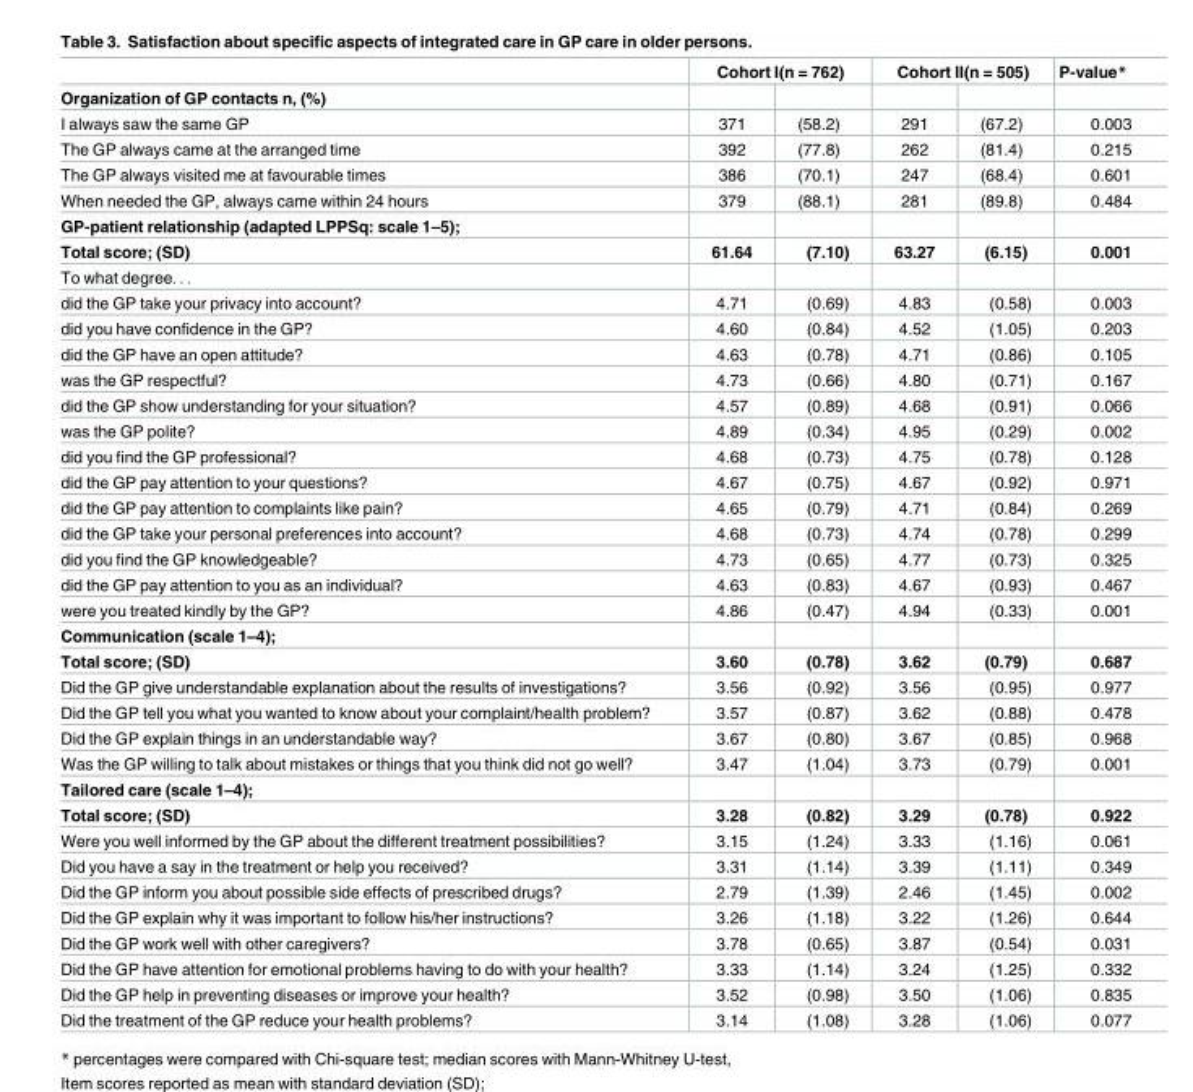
<table><thead><tr><td rowspan="2">Organization of GP contacts n, (%)</td><td colspan="2">Cohort I(n = 762)</td><td colspan="2">Cohort II(n = 505)</td><td rowspan="2">P-value*</td></tr><tr><td></td><td></td><td></td><td></td></tr></thead><tbody><tr><td>I always saw the same GP</td><td>371</td><td>(58.2)</td><td>291</td><td>(67.2)</td><td>0.003</td></tr><tr><td>The GP always came at the arranged time</td><td>392</td><td>(77.8)</td><td>262</td><td>(81.4)</td><td>0.215</td></tr><tr><td>The GP always visited me at favourable times</td><td>386</td><td>(70.1)</td><td>247</td><td>(68.4)</td><td>0.601</td></tr><tr><td>When needed the GP, always came within 24 hours</td><td>379</td><td>(88.1)</td><td>281</td><td>(89.8)</td><td>0.484</td></tr><tr><td colspan="6">GP-patient relationship (adapted LPPSq: scale 1–5);</td></tr><tr><td>Total score; (SD)</td><td>61.64</td><td>(7.10)</td><td>63.27</td><td>(6.15)</td><td>0.001</td></tr><tr><td colspan="6">To what degree. . .</td></tr><tr><td>did the GP take your privacy into account?</td><td>4.71</td><td>(0.69)</td><td>4.83</td><td>(0.58)</td><td>0.003</td></tr><tr><td>did you have confidence in the GP?</td><td>4.60</td><td>(0.84)</td><td>4.52</td><td>(1.05)</td><td>0.203</td></tr><tr><td>did the GP have an open attitude?</td><td>4.63</td><td>(0.78)</td><td>4.71</td><td>(0.86)</td><td>0.105</td></tr><tr><td>was the GP respectful?</td><td>4.73</td><td>(0.66)</td><td>4.80</td><td>(0.71)</td><td>0.167</td></tr><tr><td>did the GP show understanding for your situation?</td><td>4.57</td><td>(0.89)</td><td>4.68</td><td>(0.91)</td><td>0.066</td></tr><tr><td>was the GP polite?</td><td>4.89</td><td>(0.34)</td><td>4.95</td><td>(0.29)</td><td>0.002</td></tr><tr><td>did you find the GP professional?</td><td>4.68</td><td>(0.73)</td><td>4.75</td><td>(0.78)</td><td>0.128</td></tr><tr><td>did the GP pay attention to your questions?</td><td>4.67</td><td>(0.75)</td><td>4.67</td><td>(0.92)</td><td>0.971</td></tr><tr><td>did the GP pay attention to complaints like pain?</td><td>4.65</td><td>(0.79)</td><td>4.71</td><td>(0.84)</td><td>0.269</td></tr><tr><td>did the GP take your personal preferences into account?</td><td>4.68</td><td>(0.73)</td><td>4.74</td><td>(0.78)</td><td>0.299</td></tr><tr><td>did you find the GP knowledgeable?</td><td>4.73</td><td>(0.65)</td><td>4.77</td><td>(0.73)</td><td>0.325</td></tr><tr><td>did the GP pay attention to you as an individual?</td><td>4.63</td><td>(0.83)</td><td>4.67</td><td>(0.93)</td><td>0.467</td></tr><tr><td>were you treated kindly by the GP?</td><td>4.86</td><td>(0.47)</td><td>4.94</td><td>(0.33)</td><td>0.001</td></tr><tr><td colspan="6">Communication (scale 1–4);</td></tr><tr><td>Total score; (SD)</td><td>3.60</td><td>(0.78)</td><td>3.62</td><td>(0.79)</td><td>0.687</td></tr><tr><td>Did the GP give understandable explanation about the results of investigations?</td><td>3.56</td><td>(0.92)</td><td>3.56</td><td>(0.95)</td><td>0.977</td></tr><tr><td>Did the GP tell you what you wanted to know about your complaint/health problem?</td><td>3.57</td><td>(0.87)</td><td>3.62</td><td>(0.88)</td><td>0.478</td></tr><tr><td>Did the GP explain things in an understandable way?</td><td>3.67</td><td>(0.80)</td><td>3.67</td><td>(0.85)</td><td>0.968</td></tr><tr><td>Was the GP willing to talk about mistakes or things that you think did not go well?</td><td>3.47</td><td>(1.04)</td><td>3.73</td><td>(0.79)</td><td>0.001</td></tr><tr><td colspan="6">Tailored care (scale 1–4);</td></tr><tr><td>Total score; (SD)</td><td>3.28</td><td>(0.82)</td><td>3.29</td><td>(0.78)</td><td>0.922</td></tr><tr><td>Were you well informed by the GP about the different treatment possibilities?</td><td>3.15</td><td>(1.24)</td><td>3.33</td><td>(1.16)</td><td>0.061</td></tr><tr><td>Did you have a say in the treatment or help you received?</td><td>3.31</td><td>(1.14)</td><td>3.39</td><td>(1.11)</td><td>0.349</td></tr><tr><td>Did the GP inform you about possible side effects of prescribed drugs?</td><td>2.79</td><td>(1.39)</td><td>2.46</td><td>(1.45)</td><td>0.002</td></tr><tr><td>Did the GP explain why it was important to follow his/her instructions?</td><td>3.26</td><td>(1.18)</td><td>3.22</td><td>(1.26)</td><td>0.644</td></tr><tr><td>Did the GP work well with other caregivers?</td><td>3.78</td><td>(0.65)</td><td>3.87</td><td>(0.54)</td><td>0.031</td></tr><tr><td>Did the GP have attention for emotional problems having to do with your health?</td><td>3.33</td><td>(1.14)</td><td>3.24</td><td>(1.25)</td><td>0.332</td></tr><tr><td>Did the GP help in preventing diseases or improve your health?</td><td>3.52</td><td>(0.98)</td><td>3.50</td><td>(1.06)</td><td>0.835</td></tr><tr><td>Did the treatment of the GP reduce your health problems?</td><td>3.14</td><td>(1.08)</td><td>3.28</td><td>(1.06)</td><td>0.077</td></tr></tbody></table>